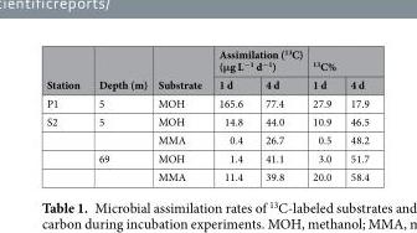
<table><thead><tr><td rowspan="2">Station</td><td rowspan="2">Depth (m)</td><td rowspan="2">Substrate</td><td colspan="2">Assimilation (<sup>13</sup>C) (μg L<sup>−1</sup> d<sup>−1</sup>)</td><td colspan="2"><sup>13</sup>C%</td></tr><tr><td>1 d</td><td>4 d</td><td>1 d</td><td>4 d</td></tr></thead><tbody><tr><td>P1</td><td>5</td><td>MOH</td><td>165.6</td><td>77.4</td><td>27.9</td><td>17.9</td></tr><tr><td rowspan="4">S2</td><td>5</td><td>MOH</td><td>14.8</td><td>44.0</td><td>10.9</td><td>46.5</td></tr><tr><td></td><td>MMA</td><td>0.4</td><td>26.7</td><td>0.5</td><td>48.2</td></tr><tr><td>69</td><td>MOH</td><td>1.4</td><td>41.1</td><td>3.0</td><td>51.7</td></tr><tr><td></td><td>MMA</td><td>11.4</td><td>39.8</td><td>20.0</td><td>58.4</td></tr></tbody></table>